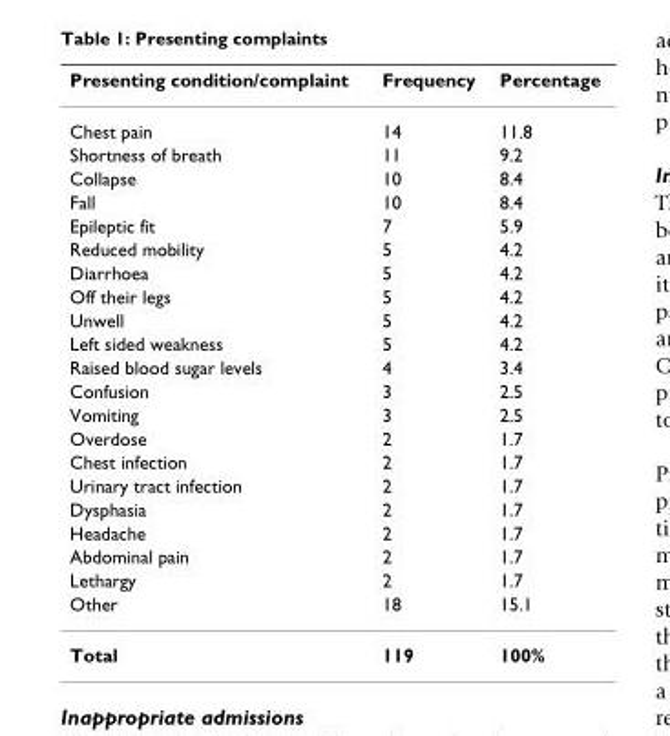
<table><thead><tr><td>Presenting condition/complaint</td><td>Frequency</td><td>Percentage</td></tr></thead><tbody><tr><td>Chest pain</td><td>14</td><td>11.8</td></tr><tr><td>Shortness of breath</td><td>11</td><td>9.2</td></tr><tr><td>Collapse</td><td>10</td><td>8.4</td></tr><tr><td>Fall</td><td>10</td><td>8.4</td></tr><tr><td>Epileptic fit</td><td>7</td><td>5.9</td></tr><tr><td>Reduced mobility</td><td>5</td><td>4.2</td></tr><tr><td>Diarrhoea</td><td>5</td><td>4.2</td></tr><tr><td>Off their legs</td><td>5</td><td>4.2</td></tr><tr><td>Unwell</td><td>5</td><td>4.2</td></tr><tr><td>Left sided weakness</td><td>5</td><td>4.2</td></tr><tr><td>Raised blood sugar levels</td><td>4</td><td>3.4</td></tr><tr><td>Confusion</td><td>3</td><td>2.5</td></tr><tr><td>Vomiting</td><td>3</td><td>2.5</td></tr><tr><td>Overdose</td><td>2</td><td>1.7</td></tr><tr><td>Chest infection</td><td>2</td><td>1.7</td></tr><tr><td>Urinary tract infection</td><td>2</td><td>1.7</td></tr><tr><td>Dysphasia</td><td>2</td><td>1.7</td></tr><tr><td>Headache</td><td>2</td><td>1.7</td></tr><tr><td>Abdominal pain</td><td>2</td><td>1.7</td></tr><tr><td>Lethargy</td><td>2</td><td>1.7</td></tr><tr><td>Other</td><td>18</td><td>15.1</td></tr><tr><td>Total</td><td>119</td><td>100%</td></tr></tbody></table>